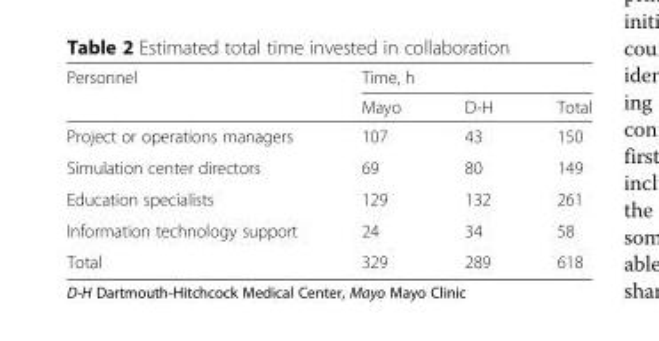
<table><thead><tr><td rowspan="2">Personnel</td><td colspan="3">Time, h</td></tr><tr><td>Mayo</td><td>D-H</td><td>Total</td></tr></thead><tbody><tr><td>Project or operations managers</td><td>107</td><td>43</td><td>150</td></tr><tr><td>Simulation center directors</td><td>69</td><td>80</td><td>149</td></tr><tr><td>Education specialists</td><td>129</td><td>132</td><td>261</td></tr><tr><td>Information technology support</td><td>24</td><td>34</td><td>58</td></tr><tr><td>Total</td><td>329</td><td>289</td><td>618</td></tr></tbody></table>